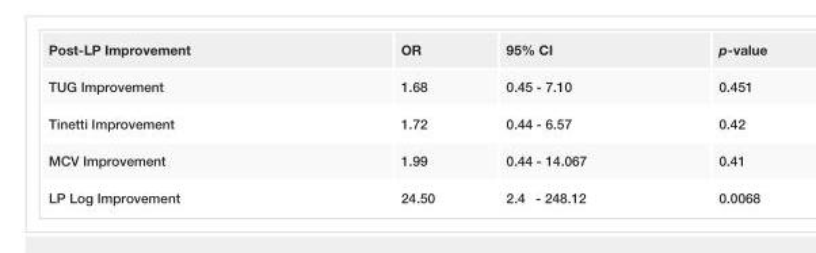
<table><tbody><tr><td>Post-LP Improvement</td><td>OR</td><td>95% CI</td><td>p-value</td></tr><tr><td>TUG Improvement</td><td>1.68</td><td>0.45 - 7.10</td><td>0.451</td></tr><tr><td>Tinetti Improvement</td><td>1.72</td><td>0.44 - 6.57</td><td>0.42</td></tr><tr><td>MCV Improvement</td><td>1.99</td><td>0.44 - 14.067</td><td>0.41</td></tr><tr><td>LP Log Improvement</td><td>24.50</td><td>2.4 - 248.12</td><td>0.0068</td></tr></tbody></table>